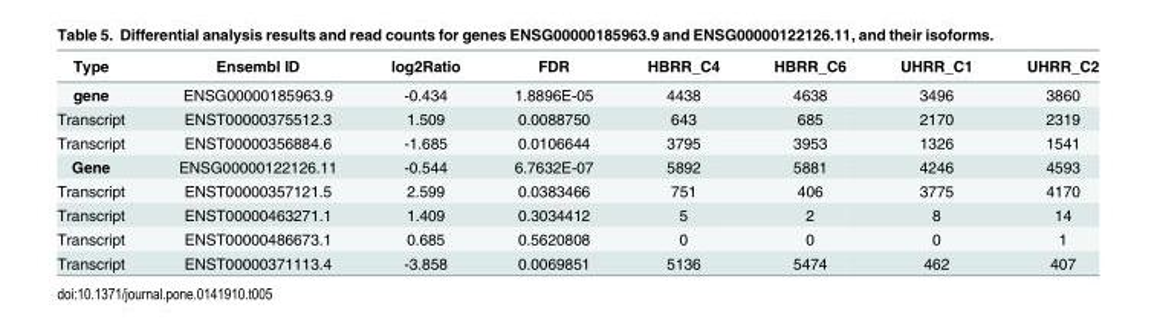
<table><thead><tr><td>Type</td><td>Ensembl ID</td><td>log2Ratio</td><td>FDR</td><td>HBRR_C4</td><td>HBRR_C6</td><td>UHRR_C1</td><td>UHRR_C2</td></tr></thead><tbody><tr><td>gene</td><td>ENSG00000185963.9</td><td>-0.434</td><td>1.8896E-05</td><td>4438</td><td>4638</td><td>3496</td><td>3860</td></tr><tr><td>Transcript</td><td>ENST00000375512.3</td><td>1.509</td><td>0.0088750</td><td>643</td><td>685</td><td>2170</td><td>2319</td></tr><tr><td>Transcript</td><td>ENST00000356884.6</td><td>-1.685</td><td>0.0106644</td><td>3795</td><td>3953</td><td>1326</td><td>1541</td></tr><tr><td>Gene</td><td>ENSG00000122126.11</td><td>-0.544</td><td>6.7632E-07</td><td>5892</td><td>5881</td><td>4246</td><td>4593</td></tr><tr><td>Transcript</td><td>ENST00000357121.5</td><td>2.599</td><td>0.0383466</td><td>751</td><td>406</td><td>3775</td><td>4170</td></tr><tr><td>Transcript</td><td>ENST00000463271.1</td><td>1.409</td><td>0.3034412</td><td>5</td><td>2</td><td>8</td><td>14</td></tr><tr><td>Transcript</td><td>ENST00000486673.1</td><td>0.685</td><td>0.5620808</td><td>0</td><td>0</td><td>0</td><td>1</td></tr><tr><td>Transcript</td><td>ENST00000371113.4</td><td>-3.858</td><td>0.0069851</td><td>5136</td><td>5474</td><td>462</td><td>407</td></tr></tbody></table>